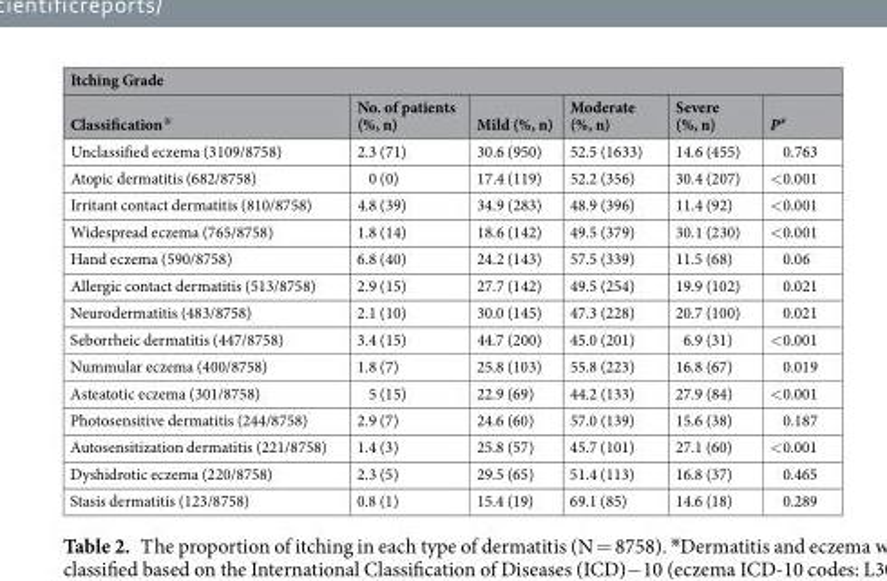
<table><thead><tr><td colspan="6">Itching Grade</td></tr><tr><td>Classification<sup>※</sup></td><td>No. of patients (%, n)</td><td>Mild (%, n)</td><td>Moderate (%, n)</td><td>Severe (%, n)</td><td>P<sup>#</sup></td></tr></thead><tbody><tr><td>Unclassified eczema (3109/8758)</td><td>2.3 (71)</td><td>30.6 (950)</td><td>52.5 (1633)</td><td>14.6 (455)</td><td>0.763</td></tr><tr><td>Atopic dermatitis (682/8758)</td><td>0 (0)</td><td>17.4 (119)</td><td>52.2 (356)</td><td>30.4 (207)</td><td>&lt;0.001</td></tr><tr><td>Irritant contact dermatitis (810/8758)</td><td>4.8 (39)</td><td>34.9 (283)</td><td>48.9 (396)</td><td>11.4 (92)</td><td>&lt;0.001</td></tr><tr><td>Widespread eczema (765/8758)</td><td>1.8 (14)</td><td>18.6 (142)</td><td>49.5 (379)</td><td>30.1 (230)</td><td>&lt;0.001</td></tr><tr><td>Hand eczema (590/8758)</td><td>6.8 (40)</td><td>24.2 (143)</td><td>57.5 (339)</td><td>11.5 (68)</td><td>0.06</td></tr><tr><td>Allergic contact dermatitis (513/8758)</td><td>2.9 (15)</td><td>27.7 (142)</td><td>49.5 (254)</td><td>19.9 (102)</td><td>0.021</td></tr><tr><td>Neurodermatitis (483/8758)</td><td>2.1 (10)</td><td>30.0 (145)</td><td>47.3 (228)</td><td>20.7 (100)</td><td>0.021</td></tr><tr><td>Seborrheic dermatitis (447/8758)</td><td>3.4 (15)</td><td>44.7 (200)</td><td>45.0 (201)</td><td>6.9 (31)</td><td>&lt;0.001</td></tr><tr><td>Nummular eczema (400/8758)</td><td>1.8 (7)</td><td>25.8 (103)</td><td>55.8 (223)</td><td>16.8 (67)</td><td>0.019</td></tr><tr><td>Asteatotic eczema (301/8758)</td><td>5 (15)</td><td>22.9 (69)</td><td>44.2 (133)</td><td>27.9 (84)</td><td>&lt;0.001</td></tr><tr><td>Photosensitive dermatitis (244/8758)</td><td>2.9 (7)</td><td>24.6 (60)</td><td>57.0 (139)</td><td>15.6 (38)</td><td>0.187</td></tr><tr><td>Autosensitization dermatitis (221/8758)</td><td>1.4 (3)</td><td>25.8 (57)</td><td>45.7 (101)</td><td>27.1 (60)</td><td>&lt;0.001</td></tr><tr><td>Dyshidrotic eczema (220/8758)</td><td>2.3 (5)</td><td>29.5 (65)</td><td>51.4 (113)</td><td>16.8 (37)</td><td>0.465</td></tr><tr><td>Stasis dermatitis (123/8758)</td><td>0.8 (1)</td><td>15.4 (19)</td><td>69.1 (85)</td><td>14.6 (18)</td><td>0.289</td></tr></tbody></table>